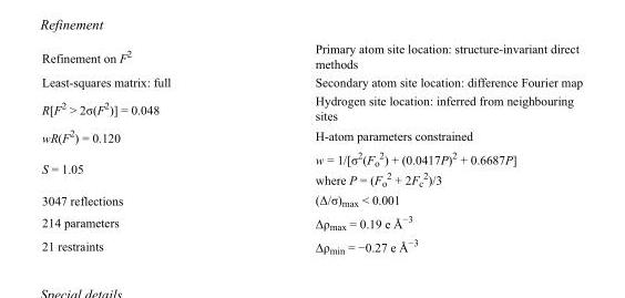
<table><tbody><tr><td>Refinement on F<sup>2</sup></td><td>Primary atom site location: structure-invariant direct methods</td></tr><tr><td>Least-squares matrix: full</td><td>Secondary atom site location: difference Fourier map</td></tr><tr><td>R[F<sup>2</sup> &gt; 2σ(F<sup>2</sup>)] = 0.048</td><td>Hydrogen site location: inferred from neighbouring sites</td></tr><tr><td>wR(F<sup>2</sup>) = 0.120</td><td>H-atom parameters constrained</td></tr><tr><td>S = 1.05</td><td>w = 1/[σ<sup>2</sup>(F<sub>o</sub> <sup>2</sup>) + (0.0417P)<sup>2</sup> + 0.6687P] where P = (F<sub>o</sub> <sup>2</sup> + 2F<sub>c</sub> <sup>2</sup>)/3</td></tr><tr><td>3047 reflections</td><td>(Δ/σ)<sub>max</sub> &lt; 0.001</td></tr><tr><td>214 parameters</td><td>Δρ<sub>max</sub> = 0.19 e Å<sup>−3</sup></td></tr><tr><td>21 restraints</td><td>Δρ<sub>min</sub> = −0.27 e Å<sup>−3</sup></td></tr></tbody></table>